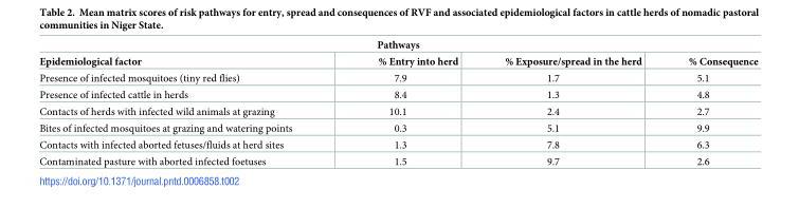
<table><thead><tr><td colspan="4">Pathways</td></tr><tr><td>Epidemiological factor</td><td>% Entry into herd</td><td>% Exposure/spread in the herd</td><td>% Consequence</td></tr></thead><tbody><tr><td>Presence of infected mosquitoes (tiny red flies)</td><td>7.9</td><td>1.7</td><td>5.1</td></tr><tr><td>Presence of infected cattle in herds</td><td>8.4</td><td>1.3</td><td>4.8</td></tr><tr><td>Contacts of herds with infected wild animals at grazing</td><td>10.1</td><td>2.4</td><td>2.7</td></tr><tr><td>Bites of infected mosquitoes at grazing and watering points</td><td>0.3</td><td>5.1</td><td>9.9</td></tr><tr><td>Contacts with infected aborted fetuses/fluids at herd sites</td><td>1.3</td><td>7.8</td><td>6.3</td></tr><tr><td>Contaminated pasture with aborted infected foetuses</td><td>1.5</td><td>9.7</td><td>2.6</td></tr></tbody></table>